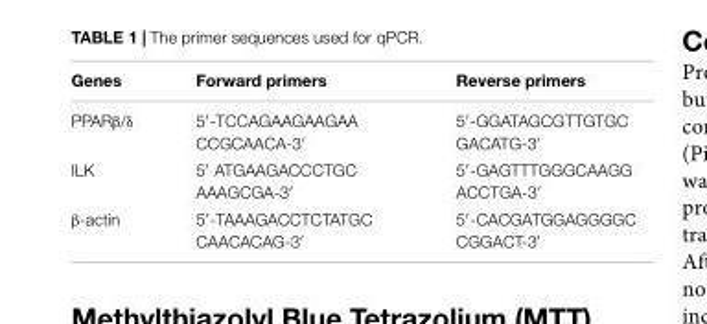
<table><thead><tr><td>Genes</td><td>Forward primers</td><td>Reverse primers</td></tr></thead><tbody><tr><td>PPARβ/δ</td><td>5′-TCCAGAAGAAGAA CCGCAACA-3′</td><td>5′-GGATAGCGTTGTGC GACATG-3′</td></tr><tr><td>ILK</td><td>5′ ATGAAGACCCTGC AAAGCGA-3′</td><td>5′-GAGTTTGGGCAAGG ACCTGA-3′</td></tr><tr><td>β-actin</td><td>5′-TAAAGACCTCTATGC CAACACAG-3′</td><td>5′-CACGATGGAGGGGC CGGACT-3′</td></tr></tbody></table>